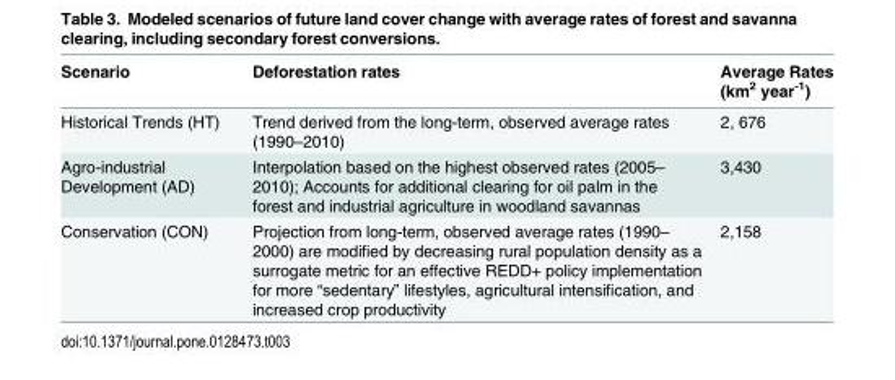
<table><thead><tr><td>Scenario</td><td>Deforestation rates</td><td>Average Rates (km<sup>2</sup> year<sup>-1</sup>)</td></tr></thead><tbody><tr><td>Historical Trends (HT)</td><td>Trend derived from the long-term, observed average rates (1990–2010)</td><td>2, 676</td></tr><tr><td>Agro-industrial Development (AD)</td><td>Interpolation based on the highest observed rates (2005– 2010); Accounts for additional clearing for oil palm in the forest and industrial agriculture in woodland savannas</td><td>3,430</td></tr><tr><td>Conservation (CON)</td><td>Projection from long-term, observed average rates (1990– 2000) are modified by decreasing rural population density as a surrogate metric for an effective REDD+ policy implementation for more “sedentary” lifestyles, agricultural intensification, and increased crop productivity</td><td>2,158</td></tr></tbody></table>